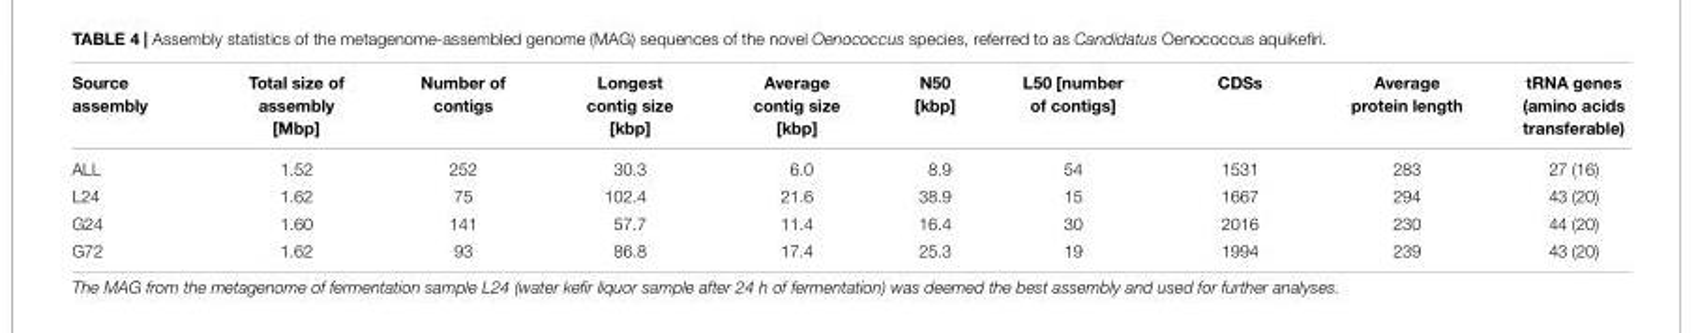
<table><thead><tr><td>Source assembly</td><td>Total size of assembly [Mbp]</td><td>Number of contigs</td><td>Longest contig size [kbp]</td><td>Average contig size [kbp]</td><td>N50 [kbp]</td><td>L50 [number of contigs]</td><td>CDSs</td><td>Average protein length</td><td>tRNA genes (amino acids transferable)</td></tr></thead><tbody><tr><td>ALL</td><td>1.52</td><td>252</td><td>30.3</td><td>6.0</td><td>8.9</td><td>54</td><td>1531</td><td>283</td><td>27 (16)</td></tr><tr><td>L24</td><td>1.62</td><td>75</td><td>102.4</td><td>21.6</td><td>38.9</td><td>15</td><td>1667</td><td>294</td><td>43 (20)</td></tr><tr><td>G24</td><td>1.60</td><td>141</td><td>57.7</td><td>11.4</td><td>16.4</td><td>30</td><td>2016</td><td>230</td><td>44 (20)</td></tr><tr><td>G72</td><td>1.62</td><td>93</td><td>86.8</td><td>17.4</td><td>25.3</td><td>19</td><td>1994</td><td>239</td><td>43 (20)</td></tr></tbody></table>